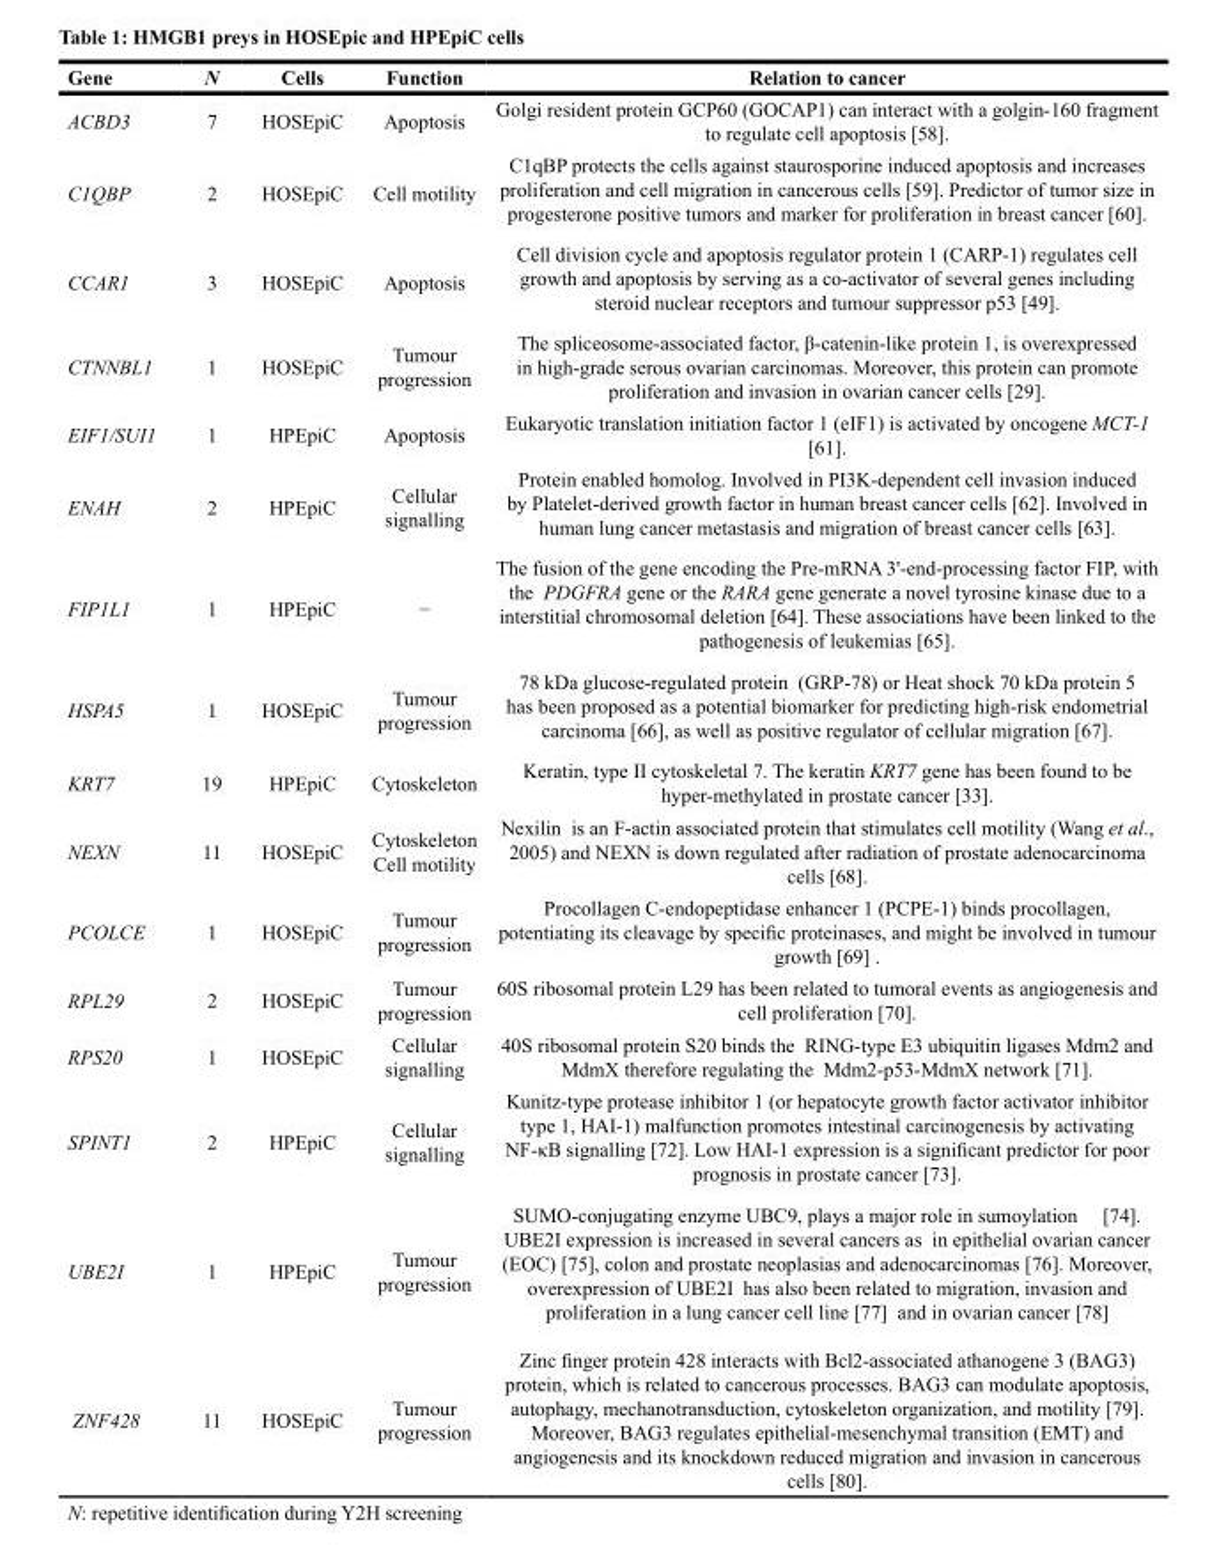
<table><thead><tr><td>Gene</td><td>N</td><td>Cells</td><td>Function</td><td>Relation to cancer</td></tr></thead><tbody><tr><td>ACBD3</td><td>7</td><td>HOSEpiC</td><td>Apoptosis</td><td>Golgi resident protein GCP60 (GOCAP1) can interact with a golgin-160 fragment to regulate cell apoptosis [58].</td></tr><tr><td>C1QBP</td><td>2</td><td>HOSEpiC</td><td>Cell motility</td><td>C1qBP protects the cells against staurosporine induced apoptosis and increases proliferation and cell migration in cancerous cells [59]. Predictor of tumor size in progesterone positive tumors and marker for proliferation in breast cancer [60].</td></tr><tr><td>CCAR1</td><td>3</td><td>HOSEpiC</td><td>Apoptosis</td><td>Cell division cycle and apoptosis regulator protein 1 (CARP-1) regulates cell growth and apoptosis by serving as a co-activator of several genes including steroid nuclear receptors and tumour suppressor p53 [49].</td></tr><tr><td>CTNNBL1</td><td>1</td><td>HOSEpiC</td><td>Tumour progression</td><td>The spliceosome-associated factor, β-catenin-like protein 1, is overexpressed in high-grade serous ovarian carcinomas. Moreover, this protein can promote proliferation and invasion in ovarian cancer cells [29].</td></tr><tr><td>EIF1/SUI1</td><td>1</td><td>HPEpiC</td><td>Apoptosis</td><td>Eukaryotic translation initiation factor 1 (eIF1) is activated by oncogene MCT-1 [61].</td></tr><tr><td>ENAH</td><td>2</td><td>HPEpiC</td><td>Cellular signalling</td><td>Protein enabled homolog. Involved in PI3K-dependent cell invasion induced by Platelet-derived growth factor in human breast cancer cells [62]. Involved in human lung cancer metastasis and migration of breast cancer cells [63].</td></tr><tr><td>FIP1L1</td><td>1</td><td>HPEpiC</td><td>−</td><td>The fusion of the gene encoding the Pre-mRNA 3&#x27;-end-processing factor FIP, with the PDGFRA gene or the RARA gene generate a novel tyrosine kinase due to a interstitial chromosomal deletion [64]. These associations have been linked to the pathogenesis of leukemias [65].</td></tr><tr><td>HSPA5</td><td>1</td><td>HOSEpiC</td><td>Tumour progression</td><td>78 kDa glucose-regulated protein (GRP-78) or Heat shock 70 kDa protein 5 has been proposed as a potential biomarker for predicting high-risk endometrial carcinoma [66], as well as positive regulator of cellular migration [67].</td></tr><tr><td>KRT7</td><td>19</td><td>HPEpiC</td><td>Cytoskeleton</td><td>Keratin, type II cytoskeletal 7. The keratin KRT7 gene has been found to be hyper-methylated in prostate cancer [33].</td></tr><tr><td>NEXN</td><td>11</td><td>HOSEpiC</td><td>Cytoskeleton Cell motility</td><td>Nexilin is an F-actin associated protein that stimulates cell motility (Wang et al., 2005) and NEXN is down regulated after radiation of prostate adenocarcinoma cells [68].</td></tr><tr><td>PCOLCE</td><td>1</td><td>HOSEpiC</td><td>Tumour progression</td><td>Procollagen C-endopeptidase enhancer 1 (PCPE-1) binds procollagen, potentiating its cleavage by specific proteinases, and might be involved in tumour growth [69] .</td></tr><tr><td>RPL29</td><td>2</td><td>HOSEpiC</td><td>Tumour progression</td><td>60S ribosomal protein L29 has been related to tumoral events as angiogenesis and cell proliferation [70].</td></tr><tr><td>RPS20</td><td>1</td><td>HOSEpiC</td><td>Cellular signalling</td><td>40S ribosomal protein S20 binds the RING-type E3 ubiquitin ligases Mdm2 and MdmX therefore regulating the Mdm2-p53-MdmX network [71].</td></tr><tr><td>SPINT1</td><td>2</td><td>HPEpiC</td><td>Cellular signalling</td><td>Kunitz-type protease inhibitor 1 (or hepatocyte growth factor activator inhibitor type 1, HAI-1) malfunction promotes intestinal carcinogenesis by activating NF-κB signalling [72]. Low HAI-1 expression is a significant predictor for poor prognosis in prostate cancer [73].</td></tr><tr><td>UBE2I</td><td>1</td><td>HPEpiC</td><td>Tumour progression</td><td>SUMO-conjugating enzyme UBC9, plays a major role in sumoylation [74]. UBE2I expression is increased in several cancers as in epithelial ovarian cancer (EOC) [75], colon and prostate neoplasias and adenocarcinomas [76]. Moreover, overexpression of UBE2I has also been related to migration, invasion and proliferation in a lung cancer cell line [77] and in ovarian cancer [78]</td></tr><tr><td>ZNF428</td><td>11</td><td>HOSEpiC</td><td>Tumour progression</td><td>Zinc finger protein 428 interacts with Bcl2-associated athanogene 3 (BAG3) protein, which is related to cancerous processes. BAG3 can modulate apoptosis, autophagy, mechanotransduction, cytoskeleton organization, and motility [79]. Moreover, BAG3 regulates epithelial-mesenchymal transition (EMT) and angiogenesis and its knockdown reduced migration and invasion in cancerous cells [80].</td></tr></tbody></table>